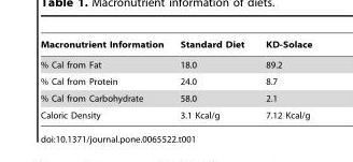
<table><thead><tr><td>Macronutrient Information</td><td>Standard Diet</td><td>KD-Solace</td></tr></thead><tbody><tr><td>% Cal from Fat</td><td>18.0</td><td>89.2</td></tr><tr><td>% Cal from Protein</td><td>24.0</td><td>8.7</td></tr><tr><td>% Cal from Carbohydrate</td><td>58.0</td><td>2.1</td></tr><tr><td>Caloric Density</td><td>3.1 Kcal/g</td><td>7.12 Kcal/g</td></tr></tbody></table>